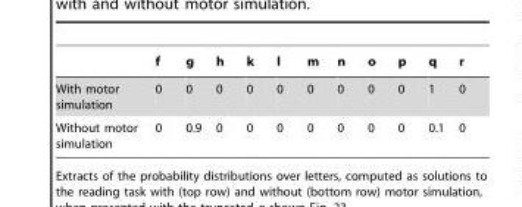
<table><thead><tr><td></td><td>f</td><td>g</td><td>h</td><td>k</td><td>l</td><td>m</td><td>n</td><td>o</td><td>p</td><td>q</td><td>r</td></tr></thead><tbody><tr><td>With motor simulation</td><td>0</td><td>0</td><td>0</td><td>0</td><td>0</td><td>0</td><td>0</td><td>0</td><td>0</td><td>1</td><td>0</td></tr><tr><td>Without motor simulation</td><td>0</td><td>0.9</td><td>0</td><td>0</td><td>0</td><td>0</td><td>0</td><td>0</td><td>0</td><td>0.1</td><td>0</td></tr></tbody></table>